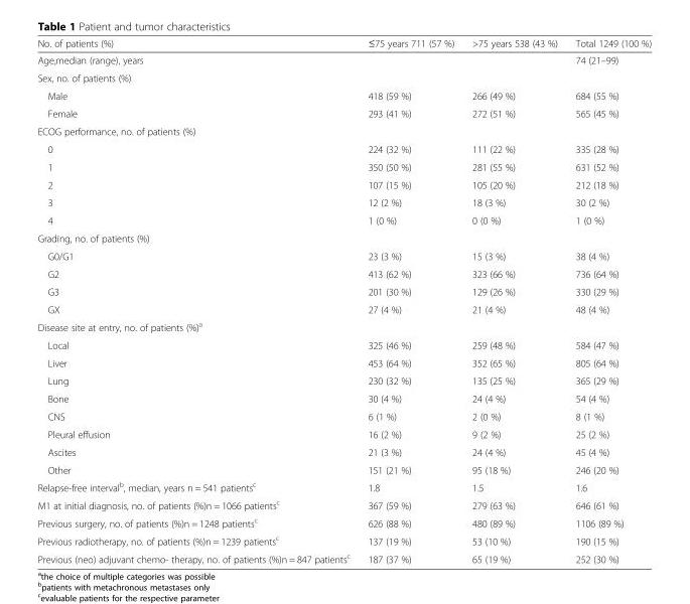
<table><thead><tr><td>No. of patients (%)</td><td>≤75 years 711 (57 %)</td><td>&gt;75 years 538 (43 %)</td><td>Total 1249 (100 %)</td></tr></thead><tbody><tr><td>Age,median (range), years</td><td></td><td></td><td>74 (21–99)</td></tr><tr><td colspan="4">Sex, no. of patients (%)</td></tr><tr><td>Male</td><td>418 (59 %)</td><td>266 (49 %)</td><td>684 (55 %)</td></tr><tr><td>Female</td><td>293 (41 %)</td><td>272 (51 %)</td><td>565 (45 %)</td></tr><tr><td colspan="4">ECOG performance, no. of patients (%)</td></tr><tr><td>0</td><td>224 (32 %)</td><td>111 (22 %)</td><td>335 (28 %)</td></tr><tr><td>1</td><td>350 (50 %)</td><td>281 (55 %)</td><td>631 (52 %)</td></tr><tr><td>2</td><td>107 (15 %)</td><td>105 (20 %)</td><td>212 (18 %)</td></tr><tr><td>3</td><td>12 (2 %)</td><td>18 (3 %)</td><td>30 (2 %)</td></tr><tr><td>4</td><td>1 (0 %)</td><td>0 (0 %)</td><td>1 (0 %)</td></tr><tr><td colspan="4">Grading, no. of patients (%)</td></tr><tr><td>G0/G1</td><td>23 (3 %)</td><td>15 (3 %)</td><td>38 (4 %)</td></tr><tr><td>G2</td><td>413 (62 %)</td><td>323 (66 %)</td><td>736 (64 %)</td></tr><tr><td>G3</td><td>201 (30 %)</td><td>129 (26 %)</td><td>330 (29 %)</td></tr><tr><td>GX</td><td>27 (4 %)</td><td>21 (4 %)</td><td>48 (4 %)</td></tr><tr><td colspan="4">Disease site at entry, no. of patients (%)<sup>a</sup></td></tr><tr><td>Local</td><td>325 (46 %)</td><td>259 (48 %)</td><td>584 (47 %)</td></tr><tr><td>Liver</td><td>453 (64 %)</td><td>352 (65 %)</td><td>805 (64 %)</td></tr><tr><td>Lung</td><td>230 (32 %)</td><td>135 (25 %)</td><td>365 (29 %)</td></tr><tr><td>Bone</td><td>30 (4 %)</td><td>24 (4 %)</td><td>54 (4 %)</td></tr><tr><td>CNS</td><td>6 (1 %)</td><td>2 (0 %)</td><td>8 (1 %)</td></tr><tr><td>Pleural effusion</td><td>16 (2 %)</td><td>9 (2 %)</td><td>25 (2 %)</td></tr><tr><td>Ascites</td><td>21 (3 %)</td><td>24 (4 %)</td><td>45 (4 %)</td></tr><tr><td>Other</td><td>151 (21 %)</td><td>95 (18 %)</td><td>246 (20 %)</td></tr><tr><td>Relapse-free interval<sup>b</sup>, median, years n = 541 patients<sup>c</sup></td><td>1.8</td><td>1.5</td><td>1.6</td></tr><tr><td>M1 at initial diagnosis, no. of patients (%)n = 1066 patients<sup>c</sup></td><td>367 (59 %)</td><td>279 (63 %)</td><td>646 (61 %)</td></tr><tr><td>Previous surgery, no. of patients (%)n = 1248 patients<sup>c</sup></td><td>626 (88 %)</td><td>480 (89 %)</td><td>1106 (89 %)</td></tr><tr><td>Previous radiotherapy, no. of patients (%)n = 1239 patients<sup>c</sup></td><td>137 (19 %)</td><td>53 (10 %)</td><td>190 (15 %)</td></tr><tr><td>Previous (neo) adjuvant chemo- therapy, no. of patients (%)n = 847 patients<sup>c</sup></td><td>187 (37 %)</td><td>65 (19 %)</td><td>252 (30 %)</td></tr></tbody></table>